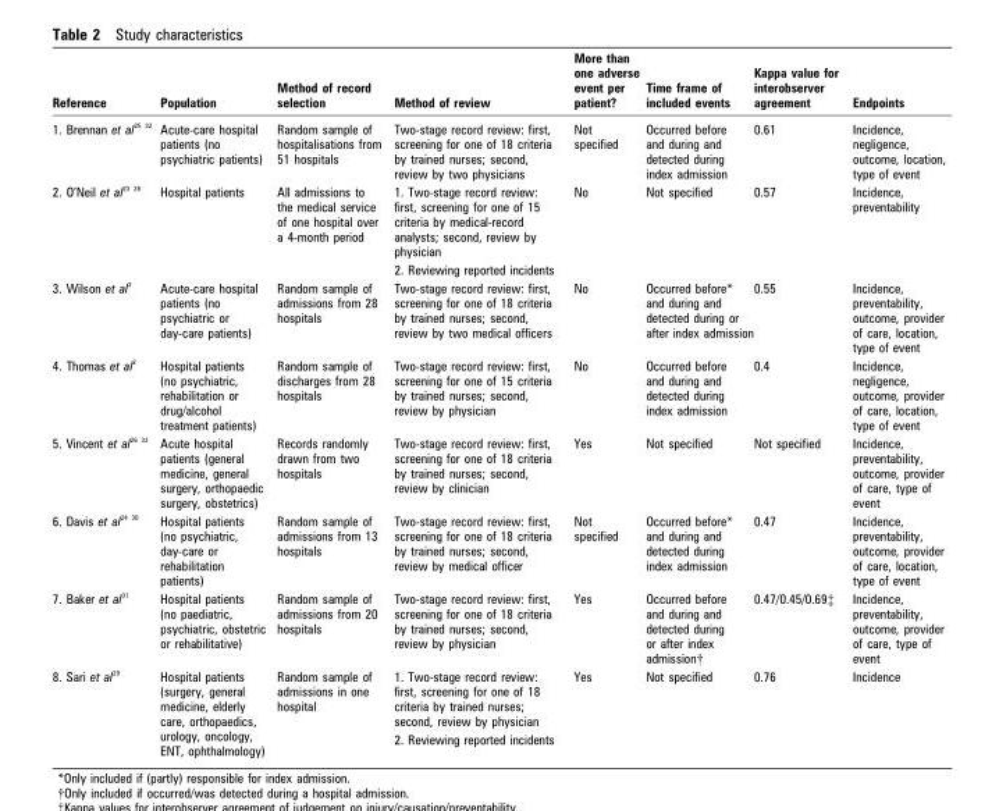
<table><thead><tr><td>Reference</td><td>Population</td><td>Method of record selection</td><td>Method of review</td><td>More than one adverse event per patient?</td><td>Time frame of included events</td><td>Kappa value for interobserver agreement</td><td>Endpoints</td></tr></thead><tbody><tr><td>1. Brennan et al 25 32</td><td>Acute-care hospital patients (no psychiatric patients)</td><td>Random sample of hospitalisations from 51 hospitals</td><td>Two-stage record review: first, screening for one of 18 criteria by trained nurses; second, review by two physicians</td><td>Not specified</td><td>Occurred before and during and detected during index admission</td><td>0.61</td><td>Incidence, negligence, outcome, location, type of event</td></tr><tr><td rowspan="2">2. O’Neil et al 23 28</td><td rowspan="2">Hospital patients</td><td rowspan="2">All admissions to the medical service of one hospital over a 4-month period</td><td>1. Two-stage record review: first, screening for one of 15 criteria by medical-record analysts; second, review by physician</td><td rowspan="2">No</td><td rowspan="2">Not specified</td><td rowspan="2">0.57</td><td rowspan="2">Incidence, preventability</td></tr><tr><td>2. Reviewing reported incidents</td></tr><tr><td>3. Wilson et al <sup>3</sup></td><td>Acute-care hospital patients (no psychiatric or day-care patients)</td><td>Random sample of admissions from 28 hospitals</td><td>Two-stage record review: first, screening for one of 18 criteria by trained nurses; second, review by two medical officers</td><td>No</td><td>Occurred before* and during and detected during or after index admission</td><td>0.55</td><td>Incidence, preventability, outcome, provider of care, location, type of event</td></tr><tr><td>4. Thomas et al <sup>2</sup></td><td>Hospital patients (no psychiatric, rehabilitation or drug/alcohol treatment patients)</td><td>Random sample of discharges from 28 hospitals</td><td>Two-stage record review: first, screening for one of 15 criteria by trained nurses; second, review by physician</td><td>No</td><td>Occurred before and during and detected during index admission</td><td>0.4</td><td>Incidence, negligence, outcome, provider of care, location, type of event</td></tr><tr><td>5. Vincent et al 26 33</td><td>Acute hospital patients (general medicine, general surgery, orthopaedic surgery, obstetrics)</td><td>Records randomly drawn from two hospitals</td><td>Two-stage record review: first, screening for one of 18 criteria by trained nurses; second, review by clinician</td><td>Yes</td><td>Not specified</td><td>Not specified</td><td>Incidence, preventability, outcome, provider of care, type of event</td></tr><tr><td>6. Davis et al 24 30</td><td>Hospital patients (no psychiatric, day-care or rehabilitation patients)</td><td>Random sample of admissions from 13 hospitals</td><td>Two-stage record review: first, screening for one of 18 criteria by trained nurses; second, review by medical officer</td><td>Not specified</td><td>Occurred before* and during and detected during index admission</td><td>0.47</td><td>Incidence, preventability, outcome, provider of care, location, type of event</td></tr><tr><td>7. Baker et al <sup>31</sup></td><td>Hospital patients (no paediatric, psychiatric, obstetric or rehabilitative)</td><td>Random sample of admissions from 20 hospitals</td><td>Two-stage record review: first, screening for one of 18 criteria by trained nurses; second, review by physician</td><td>Yes</td><td>Occurred before and during and detected during or after index admission†</td><td>0.47/0.45/0.69‡</td><td>Incidence, preventability, outcome, provider of care, type of event</td></tr><tr><td rowspan="2">8. Sari et al <sup>29</sup></td><td rowspan="2">Hospital patients (surgery, general medicine, elderly care, orthopaedics, urology, oncology, ENT, ophthalmology)</td><td rowspan="2">Random sample of admissions in one hospital</td><td>1. Two-stage record review: first, screening for one of 18 criteria by trained nurses; second, review by physician</td><td rowspan="2">Yes</td><td rowspan="2">Not specified</td><td rowspan="2">0.76</td><td rowspan="2">Incidence</td></tr><tr><td>2. Reviewing reported incidents</td></tr></tbody></table>